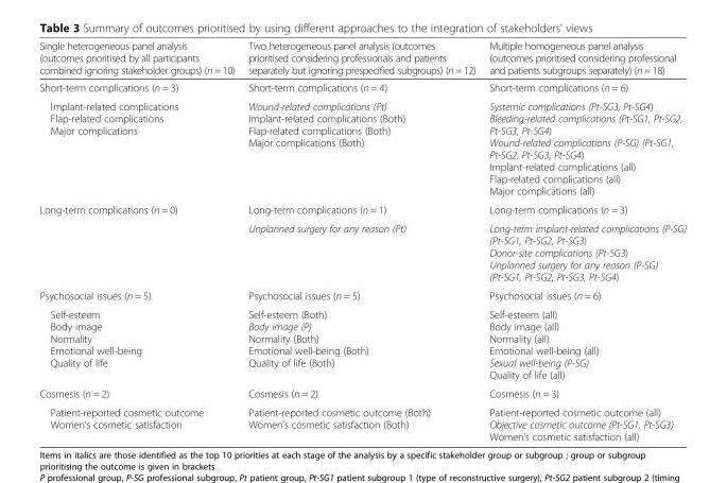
<table><thead><tr><td>Single heterogeneous panel analysis (outcomes prioritised by all participants combined ignoring stakeholder groups) (n = 10)</td><td>Two heterogeneous panel analysis (outcomes prioritised considering professionals and patients separately but ignoring prespecified subgroups) (n = 12)</td><td>Multiple homogeneous panel analysis (outcomes prioritised considering professional and patients subgroups separately) (n = 18)</td></tr></thead><tbody><tr><td>Short-term complications (n = 3)</td><td>Short-term complications (n = 4)</td><td>Short-term complications (n = 6)</td></tr><tr><td>Implant-related complications Flap-related complications Major complications</td><td>Wound-related complications (Pt) Implant-related complications (Both) Flap-related complications (Both) Major complications (Both)</td><td>Systemic complications (Pt-SG3, Pt-SG4) Bleeding-related complications (Pt-SG1, Pt-SG2, Pt-SG3, Pt-SG4) Wound-related complications (P-SG) (Pt-SG1, Pt-SG2, Pt-SG3, Pt-SG4) Implant-related complications (all) Flap-related complications (all) Major complications (all)</td></tr><tr><td rowspan="2">Long-term complications (n = 0)</td><td>Long-term complications (n = 1)</td><td>Long-term complications (n = 3)</td></tr><tr><td>Unplanned surgery for any reason (Pt)</td><td>Long-term implant-related complications (P-SG) (Pt-SG1, Pt-SG2, Pt-SG3) Donor-site complications (Pt-SG3) Unplanned surgery for any reason (P-SG) (Pt-SG1, Pt-SG2, Pt-SG3, Pt-SG4)</td></tr><tr><td>Psychosocial issues (n = 5)</td><td>Psychosocial issues (n = 5)</td><td>Psychosocial issues (n = 6)</td></tr><tr><td>Self-esteem Body image Normality Emotional well-being Quality of life</td><td>Self-esteem (Both) Body image (P) Normality (Both) Emotional well-being (Both) Quality of life (Both)</td><td>Self-esteem (all) Body image (all) Normality (all) Emotional well-being (all) Sexual well-being (P-SG) Quality of life (all)</td></tr><tr><td>Cosmesis (n = 2)</td><td>Cosmesis (n = 2)</td><td>Cosmesis (n = 3)</td></tr><tr><td>Patient-reported cosmetic outcome Women’s cosmetic satisfaction</td><td>Patient-reported cosmetic outcome (Both) Women’s cosmetic satisfaction (Both)</td><td>Patient-reported cosmetic outcome (all) Objective cosmetic outcome (Pt-SG1, Pt-SG3) Women’s cosmetic satisfaction (all)</td></tr></tbody></table>